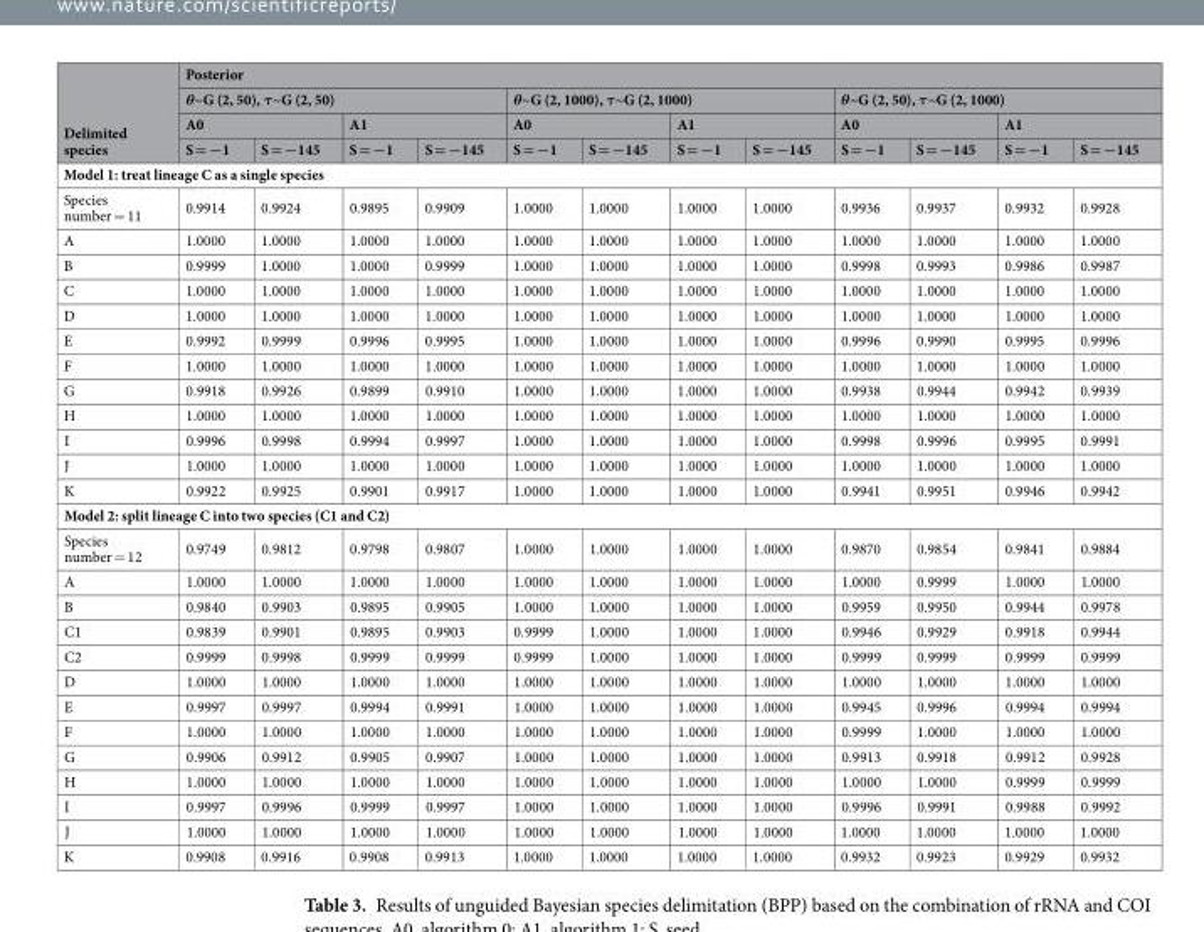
<table><thead><tr><td rowspan="4">Delimited species</td><td colspan="12">Posterior</td></tr><tr><td colspan="4">θ~G (2, 50), τ~G (2, 50)</td><td colspan="4">θ~G (2, 1000), τ~G (2, 1000)</td><td colspan="4">θ~G (2, 50), τ~G (2, 1000)</td></tr><tr><td colspan="2">A0</td><td colspan="2">A1</td><td colspan="2">A0</td><td colspan="2">A1</td><td colspan="2">A0</td><td colspan="2">A1</td></tr><tr><td>S = −1</td><td>S = −145</td><td>S = −1</td><td>S = −145</td><td>S = −1</td><td>S = −145</td><td>S = −1</td><td>S = −145</td><td>S = −1</td><td>S = −145</td><td>S = −1</td><td>S = −145</td></tr></thead><tbody><tr><td colspan="13">Model 1: treat lineage C as a single species</td></tr><tr><td>Species number = 11</td><td>0.9914</td><td>0.9924</td><td>0.9895</td><td>0.9909</td><td>1.0000</td><td>1.0000</td><td>1.0000</td><td>1.0000</td><td>0.9936</td><td>0.9937</td><td>0.9932</td><td>0.9928</td></tr><tr><td>A</td><td>1.0000</td><td>1.0000</td><td>1.0000</td><td>1.0000</td><td>1.0000</td><td>1.0000</td><td>1.0000</td><td>1.0000</td><td>1.0000</td><td>1.0000</td><td>1.0000</td><td>1.0000</td></tr><tr><td>B</td><td>0.9999</td><td>1.0000</td><td>1.0000</td><td>0.9999</td><td>1.0000</td><td>1.0000</td><td>1.0000</td><td>1.0000</td><td>0.9998</td><td>0.9993</td><td>0.9986</td><td>0.9987</td></tr><tr><td>C</td><td>1.0000</td><td>1.0000</td><td>1.0000</td><td>1.0000</td><td>1.0000</td><td>1.0000</td><td>1.0000</td><td>1.0000</td><td>1.0000</td><td>1.0000</td><td>1.0000</td><td>1.0000</td></tr><tr><td>D</td><td>1.0000</td><td>1.0000</td><td>1.0000</td><td>1.0000</td><td>1.0000</td><td>1.0000</td><td>1.0000</td><td>1.0000</td><td>1.0000</td><td>1.0000</td><td>1.0000</td><td>1.0000</td></tr><tr><td>E</td><td>0.9992</td><td>0.9999</td><td>0.9996</td><td>0.9995</td><td>1.0000</td><td>1.0000</td><td>1.0000</td><td>1.0000</td><td>0.9996</td><td>0.9990</td><td>0.9995</td><td>0.9996</td></tr><tr><td>F</td><td>1.0000</td><td>1.0000</td><td>1.0000</td><td>1.0000</td><td>1.0000</td><td>1.0000</td><td>1.0000</td><td>1.0000</td><td>1.0000</td><td>1.0000</td><td>1.0000</td><td>1.0000</td></tr><tr><td>G</td><td>0.9918</td><td>0.9926</td><td>0.9899</td><td>0.9910</td><td>1.0000</td><td>1.0000</td><td>1.0000</td><td>1.0000</td><td>0.9938</td><td>0.9944</td><td>0.9942</td><td>0.9939</td></tr><tr><td>H</td><td>1.0000</td><td>1.0000</td><td>1.0000</td><td>1.0000</td><td>1.0000</td><td>1.0000</td><td>1.0000</td><td>1.0000</td><td>1.0000</td><td>1.0000</td><td>1.0000</td><td>1.0000</td></tr><tr><td>I</td><td>0.9996</td><td>0.9998</td><td>0.9994</td><td>0.9997</td><td>1.0000</td><td>1.0000</td><td>1.0000</td><td>1.0000</td><td>0.9998</td><td>0.9996</td><td>0.9995</td><td>0.9991</td></tr><tr><td>J</td><td>1.0000</td><td>1.0000</td><td>1.0000</td><td>1.0000</td><td>1.0000</td><td>1.0000</td><td>1.0000</td><td>1.0000</td><td>1.0000</td><td>1.0000</td><td>1.0000</td><td>1.0000</td></tr><tr><td>K</td><td>0.9922</td><td>0.9925</td><td>0.9901</td><td>0.9917</td><td>1.0000</td><td>1.0000</td><td>1.0000</td><td>1.0000</td><td>0.9941</td><td>0.9951</td><td>0.9946</td><td>0.9942</td></tr><tr><td colspan="13">Model 2: split lineage C into two species (C1 and C2)</td></tr><tr><td>Species number = 12</td><td>0.9749</td><td>0.9812</td><td>0.9798</td><td>0.9807</td><td>1.0000</td><td>1.0000</td><td>1.0000</td><td>1.0000</td><td>0.9870</td><td>0.9854</td><td>0.9841</td><td>0.9884</td></tr><tr><td>A</td><td>1.0000</td><td>1.0000</td><td>1.0000</td><td>1.0000</td><td>1.0000</td><td>1.0000</td><td>1.0000</td><td>1.0000</td><td>1.0000</td><td>0.9999</td><td>1.0000</td><td>1.0000</td></tr><tr><td>B</td><td>0.9840</td><td>0.9903</td><td>0.9895</td><td>0.9905</td><td>1.0000</td><td>1.0000</td><td>1.0000</td><td>1.0000</td><td>0.9959</td><td>0.9950</td><td>0.9944</td><td>0.9978</td></tr><tr><td>C1</td><td>0.9839</td><td>0.9901</td><td>0.9895</td><td>0.9903</td><td>0.9999</td><td>1.0000</td><td>1.0000</td><td>1.0000</td><td>0.9946</td><td>0.9929</td><td>0.9918</td><td>0.9944</td></tr><tr><td>C2</td><td>0.9999</td><td>0.9998</td><td>0.9999</td><td>0.9999</td><td>0.9999</td><td>1.0000</td><td>1.0000</td><td>1.0000</td><td>0.9999</td><td>0.9999</td><td>0.9999</td><td>0.9999</td></tr><tr><td>D</td><td>1.0000</td><td>1.0000</td><td>1.0000</td><td>1.0000</td><td>1.0000</td><td>1.0000</td><td>1.0000</td><td>1.0000</td><td>1.0000</td><td>1.0000</td><td>1.0000</td><td>1.0000</td></tr><tr><td>E</td><td>0.9997</td><td>0.9997</td><td>0.9994</td><td>0.9991</td><td>1.0000</td><td>1.0000</td><td>1.0000</td><td>1.0000</td><td>0.9945</td><td>0.9996</td><td>0.9994</td><td>0.9994</td></tr><tr><td>F</td><td>1.0000</td><td>1.0000</td><td>1.0000</td><td>1.0000</td><td>1.0000</td><td>1.0000</td><td>1.0000</td><td>1.0000</td><td>0.9999</td><td>1.0000</td><td>1.0000</td><td>1.0000</td></tr><tr><td>G</td><td>0.9906</td><td>0.9912</td><td>0.9905</td><td>0.9907</td><td>1.0000</td><td>1.0000</td><td>1.0000</td><td>1.0000</td><td>0.9913</td><td>0.9918</td><td>0.9912</td><td>0.9928</td></tr><tr><td>H</td><td>1.0000</td><td>1.0000</td><td>1.0000</td><td>1.0000</td><td>1.0000</td><td>1.0000</td><td>1.0000</td><td>1.0000</td><td>1.0000</td><td>1.0000</td><td>0.9999</td><td>0.9999</td></tr><tr><td>I</td><td>0.9997</td><td>0.9996</td><td>0.9999</td><td>0.9997</td><td>1.0000</td><td>1.0000</td><td>1.0000</td><td>1.0000</td><td>0.9996</td><td>0.9991</td><td>0.9988</td><td>0.9992</td></tr><tr><td>J</td><td>1.0000</td><td>1.0000</td><td>1.0000</td><td>1.0000</td><td>1.0000</td><td>1.0000</td><td>1.0000</td><td>1.0000</td><td>1.0000</td><td>1.0000</td><td>1.0000</td><td>1.0000</td></tr><tr><td>K</td><td>0.9908</td><td>0.9916</td><td>0.9908</td><td>0.9913</td><td>1.0000</td><td>1.0000</td><td>1.0000</td><td>1.0000</td><td>0.9932</td><td>0.9923</td><td>0.9929</td><td>0.9932</td></tr></tbody></table>